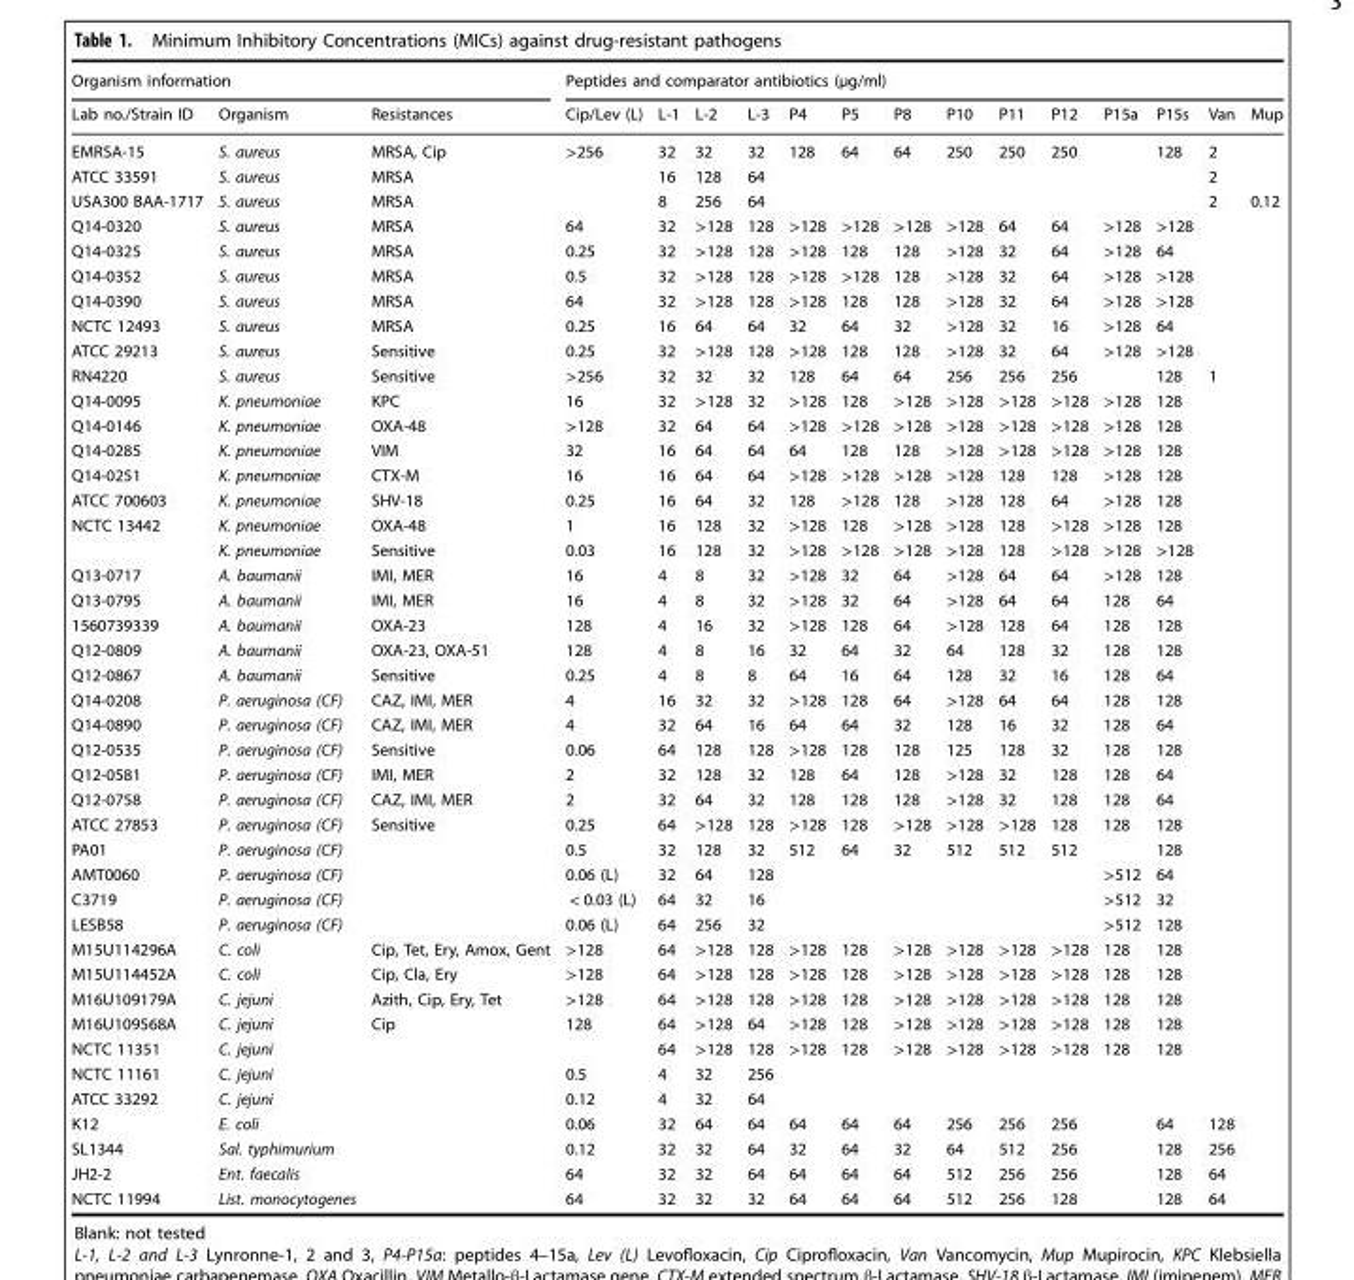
<table><thead><tr><td colspan="3">Organism information</td><td colspan="14">Peptides and comparator antibiotics (µg/ml)</td></tr><tr><td>Lab no./Strain ID</td><td>Organism</td><td>Resistances</td><td>Cip/Lev (L)</td><td>L-1</td><td>L-2</td><td>L-3</td><td>P4</td><td>P5</td><td>P8</td><td>P10</td><td>P11</td><td>P12</td><td>P15a</td><td>P15s</td><td>Van</td><td>Mup</td></tr></thead><tbody><tr><td>EMRSA-15</td><td>S. aureus</td><td>MRSA, Cip</td><td>&gt;256</td><td>32</td><td>32</td><td>32</td><td>128</td><td>64</td><td>64</td><td>250</td><td>250</td><td>250</td><td></td><td>128</td><td>2</td><td></td></tr><tr><td>ATCC 33591</td><td>S. aureus</td><td>MRSA</td><td></td><td>16</td><td>128</td><td>64</td><td></td><td></td><td></td><td></td><td></td><td></td><td></td><td></td><td>2</td><td></td></tr><tr><td>USA300 BAA-1717</td><td>S. aureus</td><td>MRSA</td><td></td><td>8</td><td>256</td><td>64</td><td></td><td></td><td></td><td></td><td></td><td></td><td></td><td></td><td>2</td><td>0.12</td></tr><tr><td>Q14-0320</td><td>S. aureus</td><td>MRSA</td><td>64</td><td>32</td><td>&gt;128</td><td>128</td><td>&gt;128</td><td>&gt;128</td><td>&gt;128</td><td>&gt;128</td><td>64</td><td>64</td><td>&gt;128</td><td>&gt;128</td><td></td><td></td></tr><tr><td>Q14-0325</td><td>S. aureus</td><td>MRSA</td><td>0.25</td><td>32</td><td>&gt;128</td><td>128</td><td>&gt;128</td><td>128</td><td>128</td><td>&gt;128</td><td>32</td><td>64</td><td>&gt;128</td><td>64</td><td></td><td></td></tr><tr><td>Q14-0352</td><td>S. aureus</td><td>MRSA</td><td>0.5</td><td>32</td><td>&gt;128</td><td>128</td><td>&gt;128</td><td>&gt;128</td><td>128</td><td>&gt;128</td><td>32</td><td>64</td><td>&gt;128</td><td>&gt;128</td><td></td><td></td></tr><tr><td>Q14-0390</td><td>S. aureus</td><td>MRSA</td><td>64</td><td>32</td><td>&gt;128</td><td>128</td><td>&gt;128</td><td>128</td><td>128</td><td>&gt;128</td><td>32</td><td>64</td><td>&gt;128</td><td>&gt;128</td><td></td><td></td></tr><tr><td>NCTC 12493</td><td>S. aureus</td><td>MRSA</td><td>0.25</td><td>16</td><td>64</td><td>64</td><td>32</td><td>64</td><td>32</td><td>&gt;128</td><td>32</td><td>16</td><td>&gt;128</td><td>64</td><td></td><td></td></tr><tr><td>ATCC 29213</td><td>S. aureus</td><td>Sensitive</td><td>0.25</td><td>32</td><td>&gt;128</td><td>128</td><td>&gt;128</td><td>128</td><td>128</td><td>&gt;128</td><td>32</td><td>64</td><td>&gt;128</td><td>&gt;128</td><td></td><td></td></tr><tr><td>RN4220</td><td>S. aureus</td><td>Sensitive</td><td>&gt;256</td><td>32</td><td>32</td><td>32</td><td>128</td><td>64</td><td>64</td><td>256</td><td>256</td><td>256</td><td></td><td>128</td><td>1</td><td></td></tr><tr><td>Q14-0095</td><td>K. pneumoniae</td><td>KPC</td><td>16</td><td>32</td><td>&gt;128</td><td>32</td><td>&gt;128</td><td>128</td><td>&gt;128</td><td>&gt;128</td><td>&gt;128</td><td>&gt;128</td><td>&gt;128</td><td>128</td><td></td><td></td></tr><tr><td>Q14-0146</td><td>K. pneumoniae</td><td>OXA-48</td><td>&gt;128</td><td>32</td><td>64</td><td>64</td><td>&gt;128</td><td>&gt;128</td><td>&gt;128</td><td>&gt;128</td><td>&gt;128</td><td>&gt;128</td><td>&gt;128</td><td>128</td><td></td><td></td></tr><tr><td>Q14-0285</td><td>K. pneumoniae</td><td>VIM</td><td>32</td><td>16</td><td>64</td><td>64</td><td>64</td><td>128</td><td>128</td><td>&gt;128</td><td>&gt;128</td><td>&gt;128</td><td>&gt;128</td><td>128</td><td></td><td></td></tr><tr><td>Q14-0251</td><td>K. pneumoniae</td><td>CTX-M</td><td>16</td><td>16</td><td>64</td><td>64</td><td>&gt;128</td><td>&gt;128</td><td>&gt;128</td><td>&gt;128</td><td>128</td><td>128</td><td>&gt;128</td><td>128</td><td></td><td></td></tr><tr><td>ATCC 700603</td><td>K. pneumoniae</td><td>SHV-18</td><td>0.25</td><td>16</td><td>64</td><td>32</td><td>128</td><td>&gt;128</td><td>128</td><td>&gt;128</td><td>128</td><td>64</td><td>&gt;128</td><td>128</td><td></td><td></td></tr><tr><td rowspan="2">NCTC 13442</td><td>K. pneumoniae</td><td>OXA-48</td><td>1</td><td>16</td><td>128</td><td>32</td><td>&gt;128</td><td>128</td><td>&gt;128</td><td>&gt;128</td><td>128</td><td>&gt;128</td><td>&gt;128</td><td>128</td><td></td><td></td></tr><tr><td>K. pneumoniae</td><td>Sensitive</td><td>0.03</td><td>16</td><td>128</td><td>32</td><td>&gt;128</td><td>&gt;128</td><td>&gt;128</td><td>&gt;128</td><td>128</td><td>&gt;128</td><td>&gt;128</td><td>&gt;128</td><td></td><td></td></tr><tr><td>Q13-0717</td><td>A. baumanii</td><td>IMI, MER</td><td>16</td><td>4</td><td>8</td><td>32</td><td>&gt;128</td><td>32</td><td>64</td><td>&gt;128</td><td>64</td><td>64</td><td>&gt;128</td><td>128</td><td></td><td></td></tr><tr><td>Q13-0795</td><td>A. baumanii</td><td>IMI, MER</td><td>16</td><td>4</td><td>8</td><td>32</td><td>&gt;128</td><td>32</td><td>64</td><td>&gt;128</td><td>64</td><td>64</td><td>128</td><td>64</td><td></td><td></td></tr><tr><td>1560739339</td><td>A. baumanii</td><td>OXA-23</td><td>128</td><td>4</td><td>16</td><td>32</td><td>&gt;128</td><td>128</td><td>64</td><td>&gt;128</td><td>128</td><td>64</td><td>128</td><td>128</td><td></td><td></td></tr><tr><td>Q12-0809</td><td>A. baumanii</td><td>OXA-23, OXA-51</td><td>128</td><td>4</td><td>8</td><td>16</td><td>32</td><td>64</td><td>32</td><td>64</td><td>128</td><td>32</td><td>128</td><td>128</td><td></td><td></td></tr><tr><td>Q12-0867</td><td>A. baumanii</td><td>Sensitive</td><td>0.25</td><td>4</td><td>8</td><td>8</td><td>64</td><td>16</td><td>64</td><td>128</td><td>32</td><td>16</td><td>128</td><td>64</td><td></td><td></td></tr><tr><td>Q14-0208</td><td>P. aeruginosa (CF)</td><td>CAZ, IMI, MER</td><td>4</td><td>16</td><td>32</td><td>32</td><td>&gt;128</td><td>128</td><td>64</td><td>&gt;128</td><td>64</td><td>64</td><td>128</td><td>128</td><td></td><td></td></tr><tr><td>Q14-0890</td><td>P. aeruginosa (CF)</td><td>CAZ, IMI, MER</td><td>4</td><td>32</td><td>64</td><td>16</td><td>64</td><td>64</td><td>32</td><td>128</td><td>16</td><td>32</td><td>128</td><td>64</td><td></td><td></td></tr><tr><td>Q12-0535</td><td>P. aeruginosa (CF)</td><td>Sensitive</td><td>0.06</td><td>64</td><td>128</td><td>128</td><td>&gt;128</td><td>128</td><td>128</td><td>125</td><td>128</td><td>32</td><td>128</td><td>128</td><td></td><td></td></tr><tr><td>Q12-0581</td><td>P. aeruginosa (CF)</td><td>IMI, MER</td><td>2</td><td>32</td><td>128</td><td>32</td><td>128</td><td>64</td><td>128</td><td>&gt;128</td><td>32</td><td>128</td><td>128</td><td>64</td><td></td><td></td></tr><tr><td>Q12-0758</td><td>P. aeruginosa (CF)</td><td>CAZ, IMI, MER</td><td>2</td><td>32</td><td>64</td><td>32</td><td>128</td><td>128</td><td>128</td><td>&gt;128</td><td>32</td><td>128</td><td>128</td><td>64</td><td></td><td></td></tr><tr><td>ATCC 27853</td><td>P. aeruginosa (CF)</td><td>Sensitive</td><td>0.25</td><td>64</td><td>&gt;128</td><td>128</td><td>&gt;128</td><td>128</td><td>&gt;128</td><td>&gt;128</td><td>&gt;128</td><td>128</td><td>128</td><td>128</td><td></td><td></td></tr><tr><td>PA01</td><td>P. aeruginosa (CF)</td><td></td><td>0.5</td><td>32</td><td>128</td><td>32</td><td>512</td><td>64</td><td>32</td><td>512</td><td>512</td><td>512</td><td></td><td>128</td><td></td><td></td></tr><tr><td>AMT0060</td><td>P. aeruginosa (CF)</td><td></td><td>0.06 (L)</td><td>32</td><td>64</td><td>128</td><td></td><td></td><td></td><td></td><td></td><td></td><td>&gt;512</td><td>64</td><td></td><td></td></tr><tr><td>C3719</td><td>P. aeruginosa (CF)</td><td></td><td>&lt; 0.03 (L)</td><td>64</td><td>32</td><td>16</td><td></td><td></td><td></td><td></td><td></td><td></td><td>&gt;512</td><td>32</td><td></td><td></td></tr><tr><td>LESB58</td><td>P. aeruginosa (CF)</td><td></td><td>0.06 (L)</td><td>64</td><td>256</td><td>32</td><td></td><td></td><td></td><td></td><td></td><td></td><td>&gt;512</td><td>128</td><td></td><td></td></tr><tr><td>M15U114296A</td><td>C. coli</td><td>Cip, Tet, Ery, Amox, Gent</td><td>&gt;128</td><td>64</td><td>&gt;128</td><td>128</td><td>&gt;128</td><td>128</td><td>&gt;128</td><td>&gt;128</td><td>&gt;128</td><td>&gt;128</td><td>128</td><td>128</td><td></td><td></td></tr><tr><td>M15U114452A</td><td>C. coli</td><td>Cip, Cla, Ery</td><td>&gt;128</td><td>64</td><td>&gt;128</td><td>128</td><td>&gt;128</td><td>128</td><td>&gt;128</td><td>&gt;128</td><td>&gt;128</td><td>&gt;128</td><td>128</td><td>128</td><td></td><td></td></tr><tr><td>M16U109179A</td><td>C. jejuni</td><td>Azith, Cip, Ery, Tet</td><td>&gt;128</td><td>64</td><td>&gt;128</td><td>128</td><td>&gt;128</td><td>128</td><td>&gt;128</td><td>&gt;128</td><td>&gt;128</td><td>&gt;128</td><td>128</td><td>128</td><td></td><td></td></tr><tr><td>M16U109568A</td><td>C. jejuni</td><td>Cip</td><td>128</td><td>64</td><td>&gt;128</td><td>64</td><td>&gt;128</td><td>128</td><td>&gt;128</td><td>&gt;128</td><td>&gt;128</td><td>&gt;128</td><td>128</td><td>128</td><td></td><td></td></tr><tr><td>NCTC 11351</td><td>C. jejuni</td><td></td><td></td><td>64</td><td>&gt;128</td><td>128</td><td>&gt;128</td><td>128</td><td>&gt;128</td><td>&gt;128</td><td>&gt;128</td><td>&gt;128</td><td>128</td><td>128</td><td></td><td></td></tr><tr><td>NCTC 11161</td><td>C. jejuni</td><td></td><td>0.5</td><td>4</td><td>32</td><td>256</td><td></td><td></td><td></td><td></td><td></td><td></td><td></td><td></td><td></td><td></td></tr><tr><td>ATCC 33292</td><td>C. jejuni</td><td></td><td>0.12</td><td>4</td><td>32</td><td>64</td><td></td><td></td><td></td><td></td><td></td><td></td><td></td><td></td><td></td><td></td></tr><tr><td>K12</td><td>E. coli</td><td></td><td>0.06</td><td>32</td><td>64</td><td>64</td><td>64</td><td>64</td><td>64</td><td>256</td><td>256</td><td>256</td><td></td><td>64</td><td>128</td><td></td></tr><tr><td>SL1344</td><td>Sal. typhimurium</td><td></td><td>0.12</td><td>32</td><td>32</td><td>64</td><td>32</td><td>64</td><td>32</td><td>64</td><td>512</td><td>256</td><td></td><td>128</td><td>256</td><td></td></tr><tr><td>JH2-2</td><td>Ent. faecalis</td><td></td><td>64</td><td>32</td><td>32</td><td>64</td><td>64</td><td>64</td><td>64</td><td>512</td><td>256</td><td>256</td><td></td><td>128</td><td>64</td><td></td></tr><tr><td>NCTC 11994</td><td>List. monocytogenes</td><td></td><td>64</td><td>32</td><td>32</td><td>32</td><td>64</td><td>64</td><td>64</td><td>512</td><td>256</td><td>128</td><td></td><td>128</td><td>64</td><td></td></tr></tbody></table>